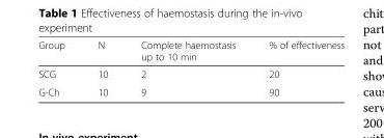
<table><thead><tr><td>Group</td><td>N</td><td>Complete haemostasis up to 10 min</td><td>% of effectiveness</td></tr></thead><tbody><tr><td>SCG</td><td>10</td><td>2</td><td>20</td></tr><tr><td>G-Ch</td><td>10</td><td>9</td><td>90</td></tr></tbody></table>